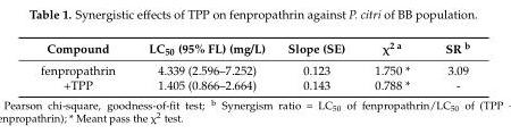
<table><thead><tr><td>Compound</td><td>LC<sub>50</sub> (95% FL) (mg/L)</td><td>Slope (SE)</td><td>χ<sup>2 a</sup></td><td>SR <sup>b</sup></td></tr></thead><tbody><tr><td>fenpropathrin</td><td>4.339 (2.596–7.252)</td><td>0.123</td><td>1.750 *</td><td>3.09</td></tr><tr><td>+TPP</td><td>1.405 (0.866–2.664)</td><td>0.143</td><td>0.788 *</td><td>-</td></tr></tbody></table>